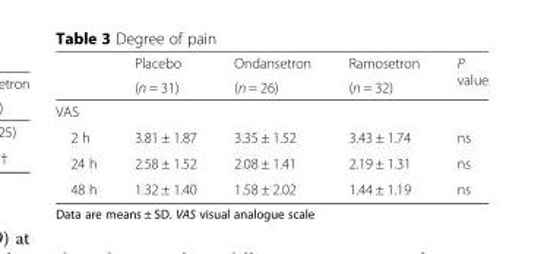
<table><thead><tr><td rowspan="2"></td><td rowspan="2">Placebo (n = 31)</td><td rowspan="2">Ondansetron (n = 26)</td><td rowspan="2">Ramosetron (n = 32)</td><td rowspan="2">P value</td></tr><tr></tr></thead><tbody><tr><td colspan="5">VAS</td></tr><tr><td>2 h</td><td>3.81 ± 1.87</td><td>3.35 ± 1.52</td><td>3.43 ± 1.74</td><td>ns</td></tr><tr><td>24 h</td><td>2.58 ± 1.52</td><td>2.08 ± 1.41</td><td>2.19 ± 1.31</td><td>ns</td></tr><tr><td>48 h</td><td>1.32 ± 1.40</td><td>1.58 ± 2.02</td><td>1.44 ± 1.19</td><td>ns</td></tr></tbody></table>